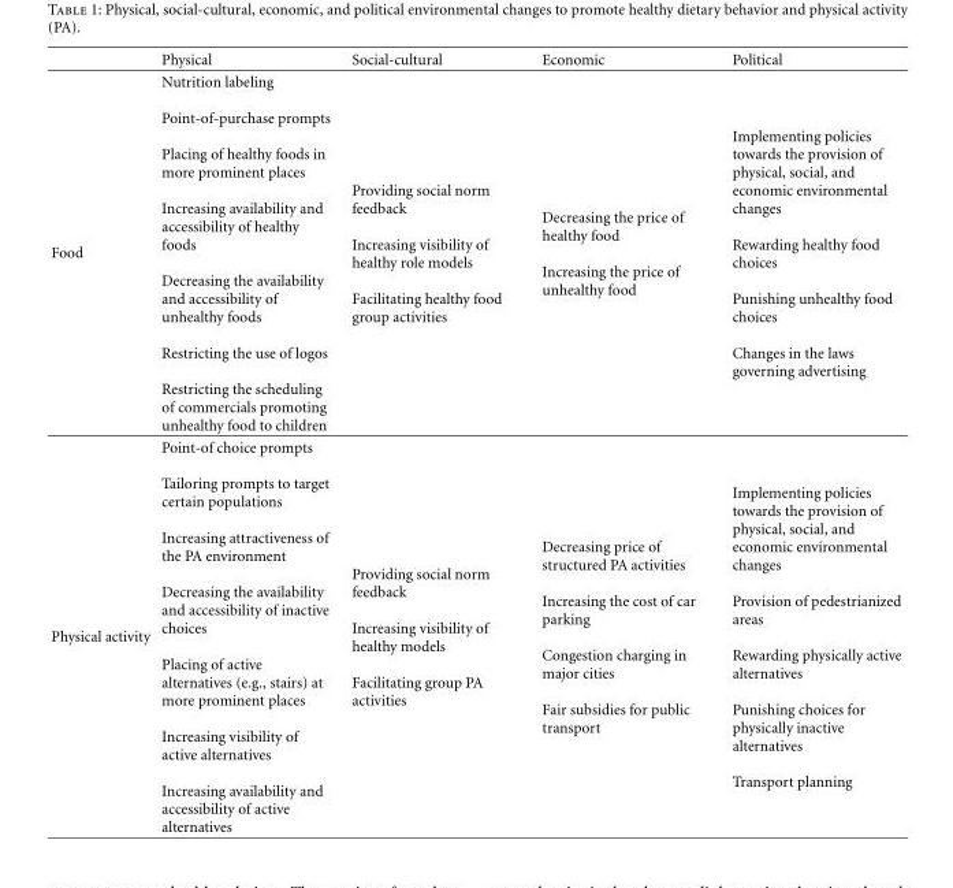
<table><thead><tr><td></td><td>Physical</td><td>Social-cultural</td><td>Economic</td><td>Political</td></tr></thead><tbody><tr><td>Food</td><td>Nutrition labeling Point-of-purchase prompts Placing of healthy foods in more prominent places Increasing availability and accessibility of healthy foods Decreasing the availability and accessibility of unhealthy foods Restricting the use of logos Restricting the scheduling of commercials promoting unhealthy food to children</td><td>Providing social norm feedback Increasing visibility of healthy role models Facilitating healthy food group activities</td><td>Decreasing the price of healthy food Increasing the price of unhealthy food</td><td>Implementing policies towards the provision of physical, social, and economic environmental changes Rewarding healthy food choices Punishing unhealthy food choices Changes in the laws governing advertising</td></tr><tr><td>Physical activity</td><td>Point-of choice prompts Tailoring prompts to target certain populations Increasing attractiveness of the PA environment Decreasing the availability and accessibility of inactive choices Placing of active alternatives (e.g., stairs) at more prominent places Increasing visibility of active alternatives Increasing availability and accessibility of active alternatives</td><td>Providing social norm feedback Increasing visibility of healthy models Facilitating group PA activities</td><td>Decreasing price of structured PA activities Increasing the cost of car parking Congestion charging in major cities Fair subsidies for public transport</td><td>Implementing policies towards the provision of physical, social, and economic environmental changes Provision of pedestrianized areas Rewarding physically active alternatives Punishing choices for physically inactive alternatives Transport planning</td></tr></tbody></table>